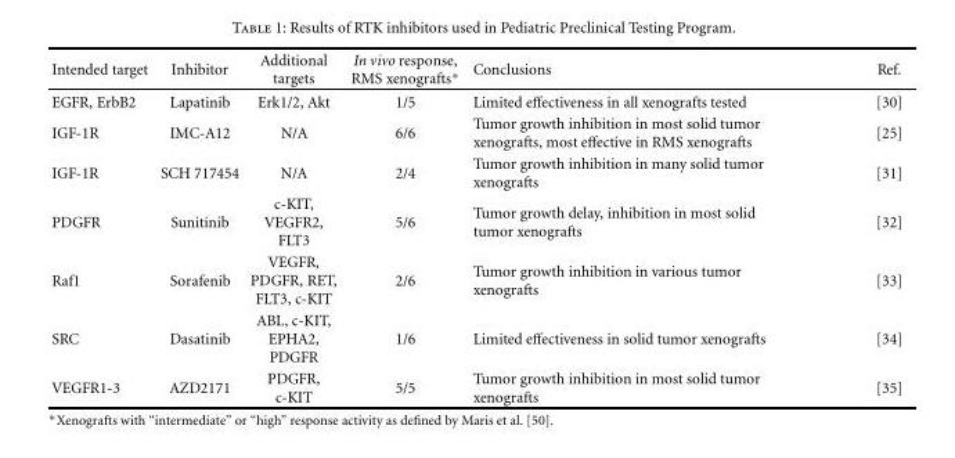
<table><thead><tr><td>Intended target</td><td>Inhibitor</td><td>Additional targets</td><td>In vivo response, RMS xenografts∗</td><td>Conclusions</td><td>Ref.</td></tr></thead><tbody><tr><td>EGFR, ErbB2</td><td>Lapatinib</td><td>Erk1/2, Akt</td><td>1/5</td><td>Limited effectiveness in all xenografts tested</td><td>[30]</td></tr><tr><td>IGF-1R</td><td>IMC-A12</td><td>N/A</td><td>6/6</td><td>Tumor growth inhibition in most solid tumor xenografts, most effective in RMS xenografts</td><td>[25]</td></tr><tr><td>IGF-1R</td><td>SCH 717454</td><td>N/A</td><td>2/4</td><td>Tumor growth inhibition in many solid tumor xenografts</td><td>[31]</td></tr><tr><td>PDGFR</td><td>Sunitinib</td><td>c-KIT, VEGFR2, FLT3</td><td>5/6</td><td>Tumor growth delay, inhibition in most solid tumor xenografts</td><td>[32]</td></tr><tr><td>Raf1</td><td>Sorafenib</td><td>VEGFR, PDGFR, RET, FLT3, c-KIT</td><td>2/6</td><td>Tumor growth inhibition in various tumor xenografts</td><td>[33]</td></tr><tr><td>SRC</td><td>Dasatinib</td><td>ABL, c-KIT, EPHA2, PDGFR</td><td>1/6</td><td>Limited effectiveness in solid tumor xenografts</td><td>[34]</td></tr><tr><td>VEGFR1-3</td><td>AZD2171</td><td>PDGFR, c-KIT</td><td>5/5</td><td>Tumor growth inhibition in most solid tumor xenografts</td><td>[35]</td></tr></tbody></table>